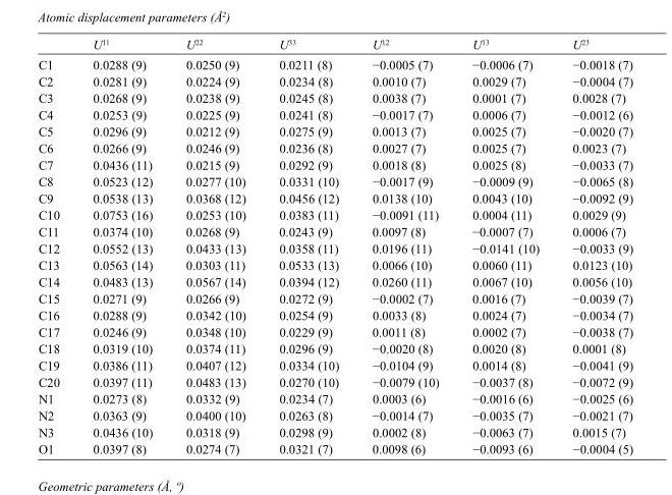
<table><thead><tr><td></td><td>U<sup>11</sup></td><td>U<sup>22</sup></td><td>U<sup>33</sup></td><td>U<sup>12</sup></td><td>U<sup>13</sup></td><td>U<sup>23</sup></td></tr></thead><tbody><tr><td>C1</td><td>0.0288 (9)</td><td>0.0250 (9)</td><td>0.0211 (8)</td><td>−0.0005 (7)</td><td>−0.0006 (7)</td><td>−0.0018 (7)</td></tr><tr><td>C2</td><td>0.0281 (9)</td><td>0.0224 (9)</td><td>0.0234 (8)</td><td>0.0010 (7)</td><td>0.0029 (7)</td><td>−0.0004 (7)</td></tr><tr><td>C3</td><td>0.0268 (9)</td><td>0.0238 (9)</td><td>0.0245 (8)</td><td>0.0038 (7)</td><td>0.0001 (7)</td><td>0.0028 (7)</td></tr><tr><td>C4</td><td>0.0253 (9)</td><td>0.0225 (9)</td><td>0.0241 (8)</td><td>−0.0017 (7)</td><td>0.0006 (7)</td><td>−0.0012 (6)</td></tr><tr><td>C5</td><td>0.0296 (9)</td><td>0.0212 (9)</td><td>0.0275 (9)</td><td>0.0013 (7)</td><td>0.0025 (7)</td><td>−0.0020 (7)</td></tr><tr><td>C6</td><td>0.0266 (9)</td><td>0.0246 (9)</td><td>0.0236 (8)</td><td>0.0027 (7)</td><td>0.0025 (7)</td><td>0.0023 (7)</td></tr><tr><td>C7</td><td>0.0436 (11)</td><td>0.0215 (9)</td><td>0.0292 (9)</td><td>0.0018 (8)</td><td>0.0025 (8)</td><td>−0.0033 (7)</td></tr><tr><td>C8</td><td>0.0523 (12)</td><td>0.0277 (10)</td><td>0.0331 (10)</td><td>−0.0017 (9)</td><td>−0.0009 (9)</td><td>−0.0065 (8)</td></tr><tr><td>C9</td><td>0.0538 (13)</td><td>0.0368 (12)</td><td>0.0456 (12)</td><td>0.0138 (10)</td><td>0.0043 (10)</td><td>−0.0092 (9)</td></tr><tr><td>C10</td><td>0.0753 (16)</td><td>0.0253 (10)</td><td>0.0383 (11)</td><td>−0.0091 (11)</td><td>0.0004 (11)</td><td>0.0029 (9)</td></tr><tr><td>C11</td><td>0.0374 (10)</td><td>0.0268 (9)</td><td>0.0243 (9)</td><td>0.0097 (8)</td><td>−0.0007 (7)</td><td>0.0006 (7)</td></tr><tr><td>C12</td><td>0.0552 (13)</td><td>0.0433 (13)</td><td>0.0358 (11)</td><td>0.0196 (11)</td><td>−0.0141 (10)</td><td>−0.0033 (9)</td></tr><tr><td>C13</td><td>0.0563 (14)</td><td>0.0303 (11)</td><td>0.0533 (13)</td><td>0.0066 (10)</td><td>0.0060 (11)</td><td>0.0123 (10)</td></tr><tr><td>C14</td><td>0.0483 (13)</td><td>0.0567 (14)</td><td>0.0394 (12)</td><td>0.0260 (11)</td><td>0.0067 (10)</td><td>0.0056 (10)</td></tr><tr><td>C15</td><td>0.0271 (9)</td><td>0.0266 (9)</td><td>0.0272 (9)</td><td>−0.0002 (7)</td><td>0.0016 (7)</td><td>−0.0039 (7)</td></tr><tr><td>C16</td><td>0.0288 (9)</td><td>0.0342 (10)</td><td>0.0254 (9)</td><td>0.0033 (8)</td><td>0.0024 (7)</td><td>−0.0034 (7)</td></tr><tr><td>C17</td><td>0.0246 (9)</td><td>0.0348 (10)</td><td>0.0229 (9)</td><td>0.0011 (8)</td><td>0.0002 (7)</td><td>−0.0038 (7)</td></tr><tr><td>C18</td><td>0.0319 (10)</td><td>0.0374 (11)</td><td>0.0296 (9)</td><td>−0.0020 (8)</td><td>0.0020 (8)</td><td>0.0001 (8)</td></tr><tr><td>C19</td><td>0.0386 (11)</td><td>0.0407 (12)</td><td>0.0334 (10)</td><td>−0.0104 (9)</td><td>0.0014 (8)</td><td>−0.0041 (9)</td></tr><tr><td>C20</td><td>0.0397 (11)</td><td>0.0483 (13)</td><td>0.0270 (10)</td><td>−0.0079 (10)</td><td>−0.0037 (8)</td><td>−0.0072 (9)</td></tr><tr><td>N1</td><td>0.0273 (8)</td><td>0.0332 (9)</td><td>0.0234 (7)</td><td>0.0003 (6)</td><td>−0.0016 (6)</td><td>−0.0025 (6)</td></tr><tr><td>N2</td><td>0.0363 (9)</td><td>0.0400 (10)</td><td>0.0263 (8)</td><td>−0.0014 (7)</td><td>−0.0035 (7)</td><td>−0.0021 (7)</td></tr><tr><td>N3</td><td>0.0436 (10)</td><td>0.0318 (9)</td><td>0.0298 (9)</td><td>0.0002 (8)</td><td>−0.0063 (7)</td><td>0.0015 (7)</td></tr><tr><td>O1</td><td>0.0397 (8)</td><td>0.0274 (7)</td><td>0.0321 (7)</td><td>0.0098 (6)</td><td>−0.0093 (6)</td><td>−0.0004 (5)</td></tr></tbody></table>